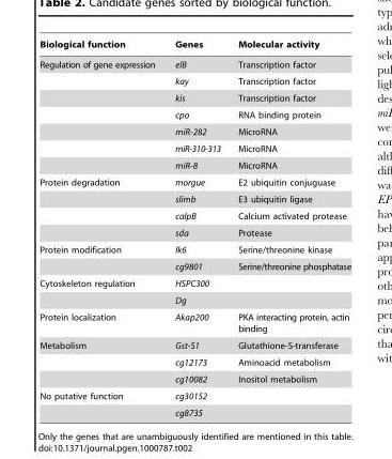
<table><thead><tr><td>Biological function</td><td>Genes</td><td>Molecular activity</td></tr></thead><tbody><tr><td rowspan="7">Regulation of gene expression</td><td>elB</td><td>Transcription factor</td></tr><tr><td>kay</td><td>Transcription factor</td></tr><tr><td>kis</td><td>Transcription factor</td></tr><tr><td>cpo</td><td>RNA binding protein</td></tr><tr><td>miR-282</td><td>MicroRNA</td></tr><tr><td>miR-310-313</td><td>MicroRNA</td></tr><tr><td>miR-8</td><td>MicroRNA</td></tr><tr><td rowspan="4">Protein degradation</td><td>morgue</td><td>E2 ubiquitin conjuguase</td></tr><tr><td>slimb</td><td>E3 ubiquitin ligase</td></tr><tr><td>calpB</td><td>Calcium activated protease</td></tr><tr><td>sda</td><td>Protease</td></tr><tr><td rowspan="2">Protein modification</td><td>lk6</td><td>Serine/threonine kinase</td></tr><tr><td>cg9801</td><td>Serine/threonine phosphatase</td></tr><tr><td rowspan="2">Cytoskeleton regulation</td><td>HSPC300</td><td></td></tr><tr><td>Dg</td><td></td></tr><tr><td>Protein localization</td><td>Akap200</td><td>PKA interacting protein, actin binding</td></tr><tr><td rowspan="3">Metabolism</td><td>Gst-S1</td><td>Glutathione-S-transferase</td></tr><tr><td>cg12173</td><td>Aminoacid metabolism</td></tr><tr><td>cg10082</td><td>Inositol metabolism</td></tr><tr><td rowspan="2">No putative function</td><td>cg30152</td><td></td></tr><tr><td>cg8735</td><td></td></tr></tbody></table>